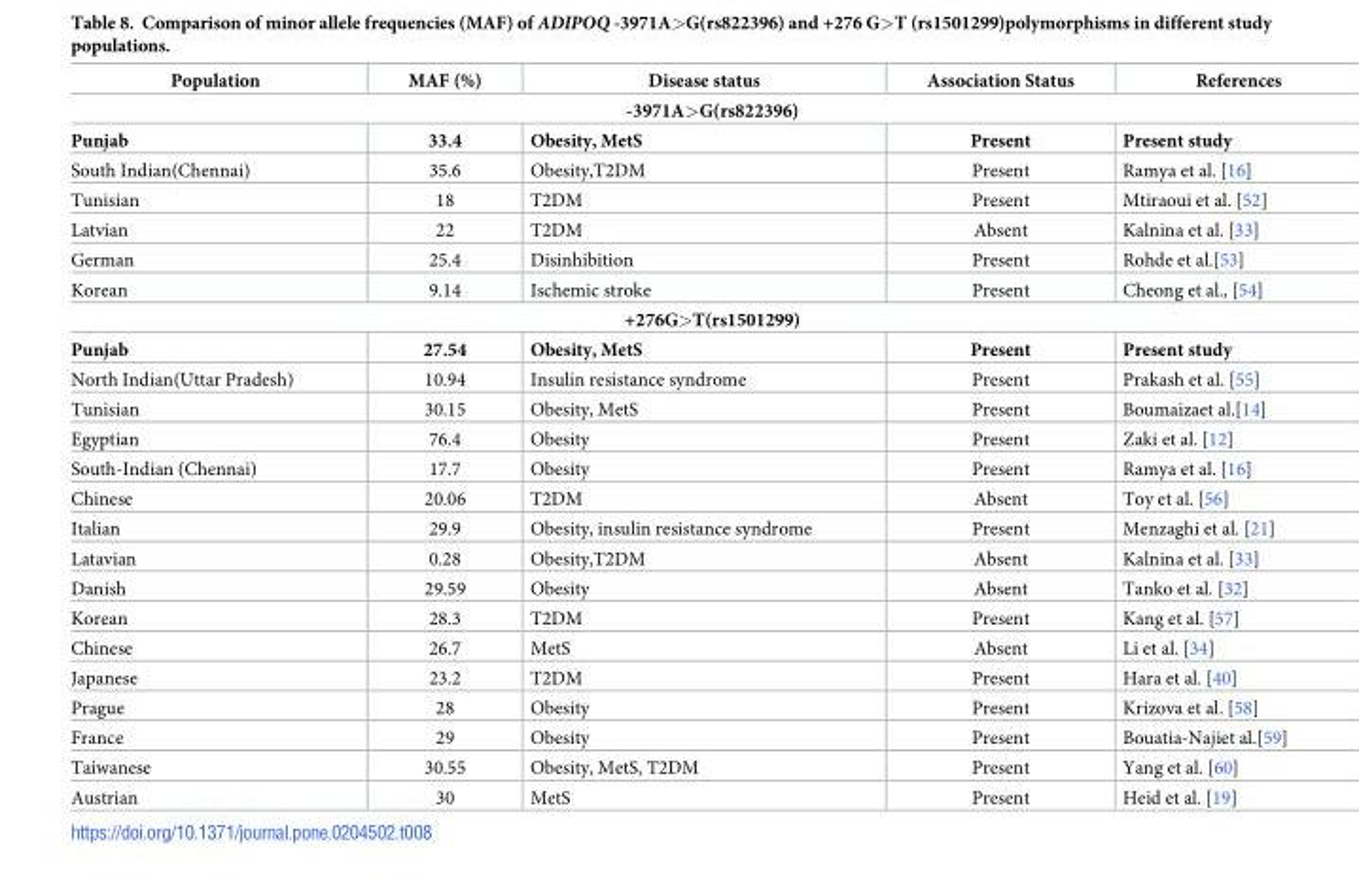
<table><thead><tr><td>Population</td><td>MAF (%)</td><td>Disease status</td><td>Association Status</td><td>References</td></tr></thead><tbody><tr><td colspan="5">-3971A&gt;G(rs822396)</td></tr><tr><td>Punjab</td><td>33.4</td><td>Obesity, MetS</td><td>Present</td><td>Present study</td></tr><tr><td>South Indian(Chennai)</td><td>35.6</td><td>Obesity,T2DM</td><td>Present</td><td>Ramya et al. [16]</td></tr><tr><td>Tunisian</td><td>18</td><td>T2DM</td><td>Present</td><td>Mtiraoui et al. [52]</td></tr><tr><td>Latvian</td><td>22</td><td>T2DM</td><td>Absent</td><td>Kalnina et al. [33]</td></tr><tr><td>German</td><td>25.4</td><td>Disinhibition</td><td>Present</td><td>Rohde et al.[53]</td></tr><tr><td>Korean</td><td>9.14</td><td>Ischemic stroke</td><td>Present</td><td>Cheong et al., [54]</td></tr><tr><td colspan="5">+276G&gt;T(rs1501299)</td></tr><tr><td>Punjab</td><td>27.54</td><td>Obesity, MetS</td><td>Present</td><td>Present study</td></tr><tr><td>North Indian(Uttar Pradesh)</td><td>10.94</td><td>Insulin resistance syndrome</td><td>Present</td><td>Prakash et al. [55]</td></tr><tr><td>Tunisian</td><td>30.15</td><td>Obesity, MetS</td><td>Present</td><td>Boumaizaet al.[14]</td></tr><tr><td>Egyptian</td><td>76.4</td><td>Obesity</td><td>Present</td><td>Zaki et al. [12]</td></tr><tr><td>South-Indian (Chennai)</td><td>17.7</td><td>Obesity</td><td>Present</td><td>Ramya et al. [16]</td></tr><tr><td>Chinese</td><td>20.06</td><td>T2DM</td><td>Absent</td><td>Toy et al. [56]</td></tr><tr><td>Italian</td><td>29.9</td><td>Obesity, insulin resistance syndrome</td><td>Present</td><td>Menzaghi et al. [21]</td></tr><tr><td>Latavian</td><td>0.28</td><td>Obesity,T2DM</td><td>Absent</td><td>Kalnina et al. [33]</td></tr><tr><td>Danish</td><td>29.59</td><td>Obesity</td><td>Absent</td><td>Tanko et al. [32]</td></tr><tr><td>Korean</td><td>28.3</td><td>T2DM</td><td>Present</td><td>Kang et al. [57]</td></tr><tr><td>Chinese</td><td>26.7</td><td>MetS</td><td>Absent</td><td>Li et al. [34]</td></tr><tr><td>Japanese</td><td>23.2</td><td>T2DM</td><td>Present</td><td>Hara et al. [40]</td></tr><tr><td>Prague</td><td>28</td><td>Obesity</td><td>Present</td><td>Krizova et al. [58]</td></tr><tr><td>France</td><td>29</td><td>Obesity</td><td>Present</td><td>Bouatia-Najiet al.[59]</td></tr><tr><td>Taiwanese</td><td>30.55</td><td>Obesity, MetS, T2DM</td><td>Present</td><td>Yang et al. [60]</td></tr><tr><td>Austrian</td><td>30</td><td>MetS</td><td>Present</td><td>Heid et al. [19]</td></tr></tbody></table>